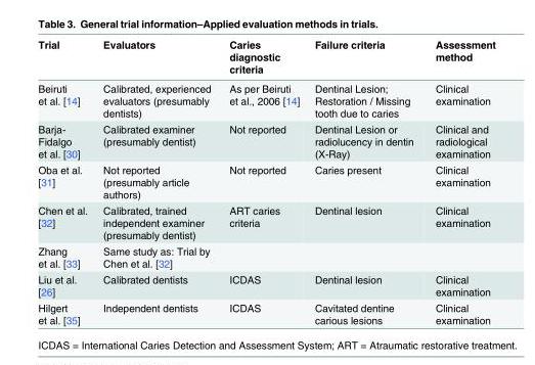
<table><thead><tr><td>Trial</td><td>Evaluators</td><td>Caries diagnostic criteria</td><td>Failure criteria</td><td>Assessment method</td></tr></thead><tbody><tr><td>Beiruti et al. [14]</td><td>Calibrated, experienced evaluators (presumably dentists)</td><td>As per Beiruti et al., 2006 [14]</td><td>Dentinal Lesion; Restoration / Missing tooth due to caries</td><td>Clinical examination</td></tr><tr><td>Barja- Fidalgo et al. [30]</td><td>Calibrated examiner (presumably dentist)</td><td>Not reported</td><td>Dentinal Lesion or radiolucency in dentin (X-Ray)</td><td>Clinical and radiological examination</td></tr><tr><td>Oba et al. [31]</td><td>Not reported (presumably article authors)</td><td>Not reported</td><td>Caries present</td><td>Clinical examination</td></tr><tr><td>Chen et al. [32]</td><td>Calibrated, trained independent examiner (presumably dentist)</td><td>ART caries criteria</td><td>Dentinal lesion</td><td>Clinical examination</td></tr><tr><td>Zhang et al. [33]</td><td>Same study as: Trial by Chen et al. [32]</td><td colspan="3"></td></tr><tr><td>Liu et al. [26]</td><td>Calibrated dentists</td><td>ICDAS</td><td>Dentinal lesion</td><td>Clinical examination</td></tr><tr><td>Hilgert et al. [35]</td><td>Independent dentists</td><td>ICDAS</td><td>Cavitated dentine carious lesions</td><td>Clinical examination</td></tr></tbody></table>